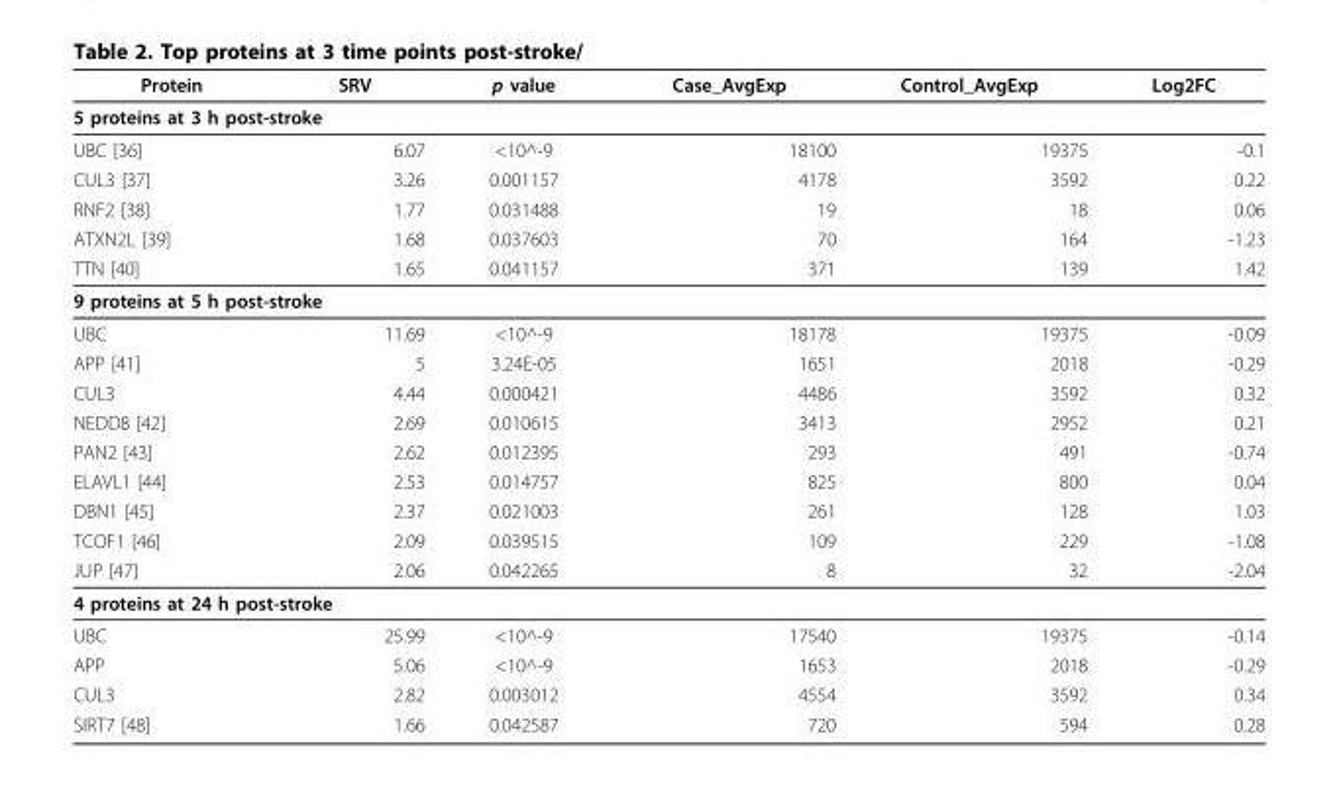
<table><thead><tr><td>Protein</td><td>SRV</td><td>p value</td><td>Case_AvgExp</td><td>Control_AvgExp</td><td>Log2FC</td></tr></thead><tbody><tr><td colspan="6">5 proteins at 3 h post-stroke</td></tr><tr><td>UBC [36]</td><td>6.07</td><td>&lt;10^-9</td><td>18100</td><td>19375</td><td>-0.1</td></tr><tr><td>CUL3 [37]</td><td>3.26</td><td>0.001157</td><td>4178</td><td>3592</td><td>0.22</td></tr><tr><td>RNF2 [38]</td><td>1.77</td><td>0.031488</td><td>19</td><td>18</td><td>0.06</td></tr><tr><td>ATXN2L [39]</td><td>1.68</td><td>0.037603</td><td>70</td><td>164</td><td>-1.23</td></tr><tr><td>TTN [40]</td><td>1.65</td><td>0.041157</td><td>371</td><td>139</td><td>1.42</td></tr><tr><td colspan="6">9 proteins at 5 h post-stroke</td></tr><tr><td>UBC</td><td>11.69</td><td>&lt;10^-9</td><td>18178</td><td>19375</td><td>-0.09</td></tr><tr><td>APP [41]</td><td>5</td><td>3.24E-05</td><td>1651</td><td>2018</td><td>-0.29</td></tr><tr><td>CUL3</td><td>4.44</td><td>0.000421</td><td>4486</td><td>3592</td><td>0.32</td></tr><tr><td>NEDD8 [42]</td><td>2.69</td><td>0.010615</td><td>3413</td><td>2952</td><td>0.21</td></tr><tr><td>PAN2 [43]</td><td>2.62</td><td>0.012395</td><td>293</td><td>491</td><td>-0.74</td></tr><tr><td>ELAVL1 [44]</td><td>2.53</td><td>0.014757</td><td>825</td><td>800</td><td>0.04</td></tr><tr><td>DBN1 [45]</td><td>2.37</td><td>0.021003</td><td>261</td><td>128</td><td>1.03</td></tr><tr><td>TCOF1 [46]</td><td>2.09</td><td>0.039515</td><td>109</td><td>229</td><td>-1.08</td></tr><tr><td>JUP [47]</td><td>2.06</td><td>0.042265</td><td>8</td><td>32</td><td>-2.04</td></tr><tr><td colspan="6">4 proteins at 24 h post-stroke</td></tr><tr><td>UBC</td><td>25.99</td><td>&lt;10^-9</td><td>17540</td><td>19375</td><td>-0.14</td></tr><tr><td>APP</td><td>5.06</td><td>&lt;10^-9</td><td>1653</td><td>2018</td><td>-0.29</td></tr><tr><td>CUL3</td><td>2.82</td><td>0.003012</td><td>4554</td><td>3592</td><td>0.34</td></tr><tr><td>SIRT7 [48]</td><td>1.66</td><td>0.042587</td><td>720</td><td>594</td><td>0.28</td></tr></tbody></table>